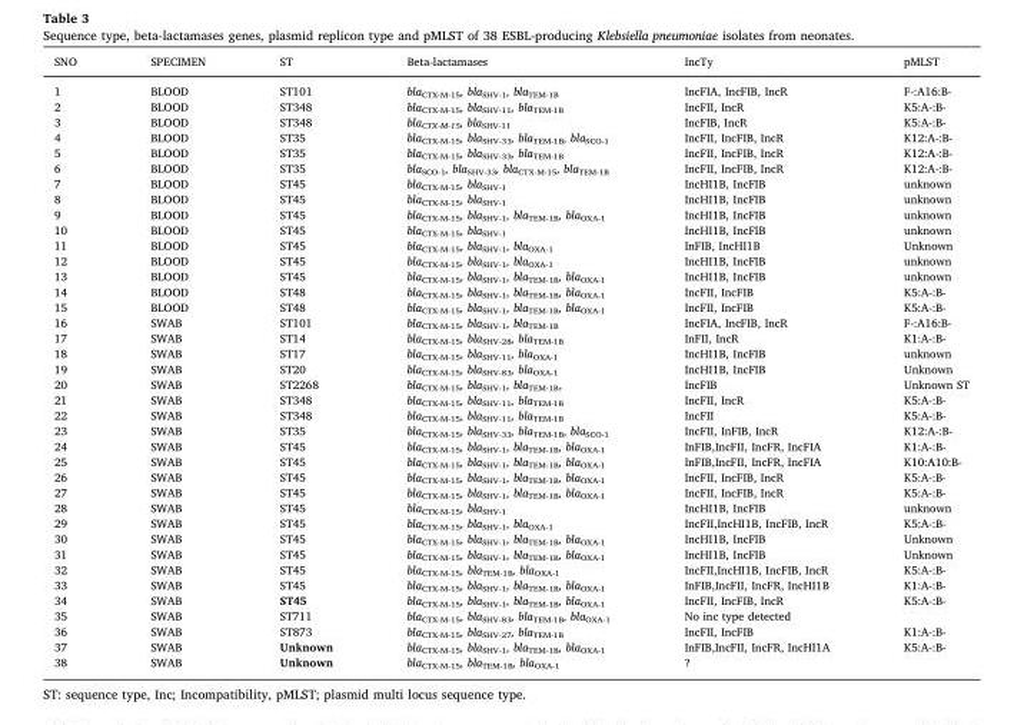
<table><thead><tr><td>SNO</td><td>SPECIMEN</td><td>ST</td><td>Beta-lactamases</td><td>IncTy</td><td>pMLST</td></tr></thead><tbody><tr><td>1</td><td>BLOOD</td><td>ST101</td><td>bla<sub>CTX-M-15</sub>, bla<sub>SHV-1</sub>, bla<sub>TEM-1B</sub></td><td>IncFIA, IncFIB, IncR</td><td>F-:A16:B-</td></tr><tr><td>2</td><td>BLOOD</td><td>ST348</td><td>bla<sub>CTX-M-15</sub>, bla<sub>SHV-11</sub>, bla<sub>TEM-1B</sub></td><td>IncFII, IncR</td><td>K5:A-:B-</td></tr><tr><td>3</td><td>BLOOD</td><td>ST348</td><td>bla<sub>CTX-M-15</sub>, bla<sub>SHV-11</sub></td><td>IncFIB, IncR</td><td>K5:A-:B-</td></tr><tr><td>4</td><td>BLOOD</td><td>ST35</td><td>bla<sub>CTX-M-15</sub>, bla<sub>SHV-33</sub>, bla<sub>TEM-1B</sub>, bla<sub>SCO-1</sub></td><td>IncFII, IncFIB, IncR</td><td>K12:A-:B-</td></tr><tr><td>5</td><td>BLOOD</td><td>ST35</td><td>bla<sub>CTX-M-15</sub>, bla<sub>SHV-33</sub>, bla<sub>TEM-1B</sub></td><td>IncFII, IncFIB, IncR</td><td>K12:A-:B-</td></tr><tr><td>6</td><td>BLOOD</td><td>ST35</td><td>bla<sub>SCO-1</sub>, bla<sub>SHV-33</sub>, bla<sub>CTX-M-15</sub>, bla<sub>TEM-1B</sub></td><td>IncFII, IncFIB, IncR</td><td>K12:A-:B-</td></tr><tr><td>7</td><td>BLOOD</td><td>ST45</td><td>bla<sub>CTX-M-15</sub>, bla<sub>SHV-1</sub></td><td>IncHI1B, IncFIB</td><td>unknown</td></tr><tr><td>8</td><td>BLOOD</td><td>ST45</td><td>bla<sub>CTX-M-15</sub>, bla<sub>SHV-1</sub></td><td>IncHI1B, IncFIB</td><td>unknown</td></tr><tr><td>9</td><td>BLOOD</td><td>ST45</td><td>bla<sub>CTX-M-15</sub>, bla<sub>SHV-1</sub>, bla<sub>TEM-1B</sub>, bla<sub>OXA-1</sub></td><td>IncHI1B, IncFIB</td><td>unknown</td></tr><tr><td>10</td><td>BLOOD</td><td>ST45</td><td>bla<sub>CTX-M-15</sub>, bla<sub>SHV-1</sub></td><td>IncHI1B, IncFIB</td><td>unknown</td></tr><tr><td>11</td><td>BLOOD</td><td>ST45</td><td>bla<sub>CTX-M-15</sub>, bla<sub>SHV-1</sub>, bla<sub>OXA-1</sub></td><td>InFIB, IncHI1B</td><td>Unknown</td></tr><tr><td>12</td><td>BLOOD</td><td>ST45</td><td>bla<sub>CTX-M-15</sub>, bla<sub>SHV-1</sub>, bla<sub>OXA-1</sub></td><td>IncHI1B, IncFIB</td><td>unknown</td></tr><tr><td>13</td><td>BLOOD</td><td>ST45</td><td>bla<sub>CTX-M-15</sub>, bla<sub>SHV-1</sub>, bla<sub>TEM-1B</sub>, bla<sub>OXA-1</sub></td><td>IncHI1B, IncFIB</td><td>unknown</td></tr><tr><td>14</td><td>BLOOD</td><td>ST48</td><td>bla<sub>CTX-M-15</sub>, bla<sub>SHV-1</sub>, bla<sub>TEM-1B</sub>, bla<sub>OXA-1</sub></td><td>IncFII, IncFIB</td><td>K5:A-:B-</td></tr><tr><td>15</td><td>BLOOD</td><td>ST48</td><td>bla<sub>CTX-M-15</sub>, bla<sub>SHV-1</sub>, bla<sub>TEM-1B</sub>, bla<sub>OXA-1</sub></td><td>IncFII, IncFIB</td><td>K5:A-:B-</td></tr><tr><td>16</td><td>SWAB</td><td>ST101</td><td>bla<sub>CTX-M-15</sub>, bla<sub>SHV-1</sub>, bla<sub>TEM-1B</sub></td><td>IncFIA, IncFIB, IncR</td><td>F-:A16:B-</td></tr><tr><td>17</td><td>SWAB</td><td>ST14</td><td>bla<sub>CTX-M-15</sub>, bla<sub>SHV-28</sub>, bla<sub>TEM-1B</sub></td><td>InFII, IncR</td><td>K1:A-:B-</td></tr><tr><td>18</td><td>SWAB</td><td>ST17</td><td>bla<sub>CTX-M-15</sub>, bla<sub>SHV-11</sub>, bla<sub>OXA-1</sub></td><td>IncHI1B, IncFIB</td><td>unknown</td></tr><tr><td>19</td><td>SWAB</td><td>ST20</td><td>bla<sub>CTX-M-15</sub>, bla<sub>SHV-83</sub>, bla<sub>OXA-1</sub></td><td>IncHI1B, IncFIB</td><td>Unknown</td></tr><tr><td>20</td><td>SWAB</td><td>ST2268</td><td>bla<sub>CTX-M-15</sub>, bla<sub>SHV-1</sub>, bla<sub>TEM-1B</sub>,</td><td>IncFIB</td><td>Unknown ST</td></tr><tr><td>21</td><td>SWAB</td><td>ST348</td><td>bla<sub>CTX-M-15</sub>, bla<sub>SHV-11</sub>, bla<sub>TEM-1B</sub></td><td>IncFII, IncR</td><td>K5:A-:B-</td></tr><tr><td>22</td><td>SWAB</td><td>ST348</td><td>bla<sub>CTX-M-15</sub>, bla<sub>SHV-11</sub>, bla<sub>TEM-1B</sub></td><td>IncFII</td><td>K5:A-:B-</td></tr><tr><td>23</td><td>SWAB</td><td>ST35</td><td>bla<sub>CTX-M-15</sub>, bla<sub>SHV-33</sub>, bla<sub>TEM-1B</sub>, bla<sub>SCO-1</sub></td><td>IncFII, InFIB, IncR</td><td>K12:A-:B-</td></tr><tr><td>24</td><td>SWAB</td><td>ST45</td><td>bla<sub>CTX-M-15</sub>, bla<sub>SHV-1</sub>, bla<sub>TEM-1B</sub>, bla<sub>OXA-1</sub></td><td>InFIB,IncFII, IncFR, IncFIA</td><td>K1:A-:B-</td></tr><tr><td>25</td><td>SWAB</td><td>ST45</td><td>bla<sub>CTX-M-15</sub>, bla<sub>SHV-1</sub>, bla<sub>TEM-1B</sub>, bla<sub>OXA-1</sub></td><td>InFIB,IncFII, IncFR, IncFIA</td><td>K10:A10:B-</td></tr><tr><td>26</td><td>SWAB</td><td>ST45</td><td>bla<sub>CTX-M-15</sub>, bla<sub>SHV-1</sub>, bla<sub>TEM-1B</sub>, bla<sub>OXA-1</sub></td><td>IncFII, IncFIB, IncR</td><td>K5:A-:B-</td></tr><tr><td>27</td><td>SWAB</td><td>ST45</td><td>bla<sub>CTX-M-15</sub>, bla<sub>SHV-1</sub>, bla<sub>TEM-1B</sub>, bla<sub>OXA-1</sub></td><td>IncFII, IncFIB, IncR</td><td>K5:A-:B-</td></tr><tr><td>28</td><td>SWAB</td><td>ST45</td><td>bla<sub>CTX-M-15</sub>, bla<sub>SHV-1</sub></td><td>IncHI1B, IncFIB</td><td>unknown</td></tr><tr><td>29</td><td>SWAB</td><td>ST45</td><td>bla<sub>CTX-M-15</sub>, bla<sub>SHV-1</sub>, bla<sub>OXA-1</sub></td><td>IncFII,IncHI1B, IncFIB, IncR</td><td>K5:A-:B-</td></tr><tr><td>30</td><td>SWAB</td><td>ST45</td><td>bla<sub>CTX-M-15</sub>, bla<sub>SHV-1</sub>, bla<sub>TEM-1B</sub>, bla<sub>OXA-1</sub></td><td>IncHI1B, IncFIB</td><td>Unknown</td></tr><tr><td>31</td><td>SWAB</td><td>ST45</td><td>bla<sub>CTX-M-15</sub>, bla<sub>SHV-1</sub>, bla<sub>TEM-1B</sub>, bla<sub>OXA-1</sub></td><td>IncHI1B, IncFIB</td><td>Unknown</td></tr><tr><td>32</td><td>SWAB</td><td>ST45</td><td>bla<sub>CTX-M-15</sub>, bla<sub>TEM-1B</sub>, bla<sub>OXA-1</sub></td><td>IncFII,IncHI1B, IncFIB, IncR</td><td>K5:A-:B-</td></tr><tr><td>33</td><td>SWAB</td><td>ST45</td><td>bla<sub>CTX-M-15</sub>, bla<sub>SHV-1</sub>, bla<sub>TEM-1B</sub>, bla<sub>OXA-1</sub></td><td>InFIB,IncFII, IncFR, IncHI1B</td><td>K1:A-:B-</td></tr><tr><td>34</td><td>SWAB</td><td>ST45</td><td>bla<sub>CTX-M-15</sub>, bla<sub>SHV-1</sub>, bla<sub>TEM-1B</sub>, bla<sub>OXA-1</sub></td><td>IncFII, IncFIB, IncR</td><td>K5:A-:B-</td></tr><tr><td>35</td><td>SWAB</td><td>ST711</td><td>bla<sub>CTX-M-15</sub>, bla<sub>SHV-83</sub>, bla<sub>TEM-1B</sub>, bla<sub>OXA-1</sub></td><td>No inc type detected</td><td></td></tr><tr><td>36</td><td>SWAB</td><td>ST873</td><td>bla<sub>CTX-M-15</sub>, bla<sub>SHV-27</sub>, bla<sub>TEM-1B</sub></td><td>IncFII, IncFIB</td><td>K1:A-:B-</td></tr><tr><td>37</td><td>SWAB</td><td>Unknown</td><td>bla<sub>CTX-M-15</sub>, bla<sub>SHV-1</sub>, bla<sub>TEM-1B</sub>, bla<sub>OXA-1</sub></td><td>InFIB,IncFII, IncFR, IncHI1A</td><td>K5:A-:B-</td></tr><tr><td>38</td><td>SWAB</td><td>Unknown</td><td>bla<sub>CTX-M-15</sub>, bla<sub>TEM-1B</sub>, bla<sub>OXA-1</sub></td><td>?</td><td></td></tr></tbody></table>